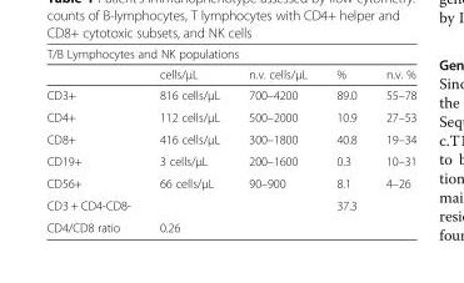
<table><thead><tr><td colspan="5">T/B Lymphocytes and NK populations</td></tr><tr><td></td><td>cells/μL</td><td>n.v. cells/μL</td><td>%</td><td>n.v. %</td></tr></thead><tbody><tr><td>CD3+</td><td>816 cells/μL</td><td>700–4200</td><td>89.0</td><td>55–78</td></tr><tr><td>CD4+</td><td>112 cells/μL</td><td>500–2000</td><td>10.9</td><td>27–53</td></tr><tr><td>CD8+</td><td>416 cells/μL</td><td>300–1800</td><td>40.8</td><td>19–34</td></tr><tr><td>CD19+</td><td>3 cells/μL</td><td>200–1600</td><td>0.3</td><td>10–31</td></tr><tr><td>CD56+</td><td>66 cells/μL</td><td>90–900</td><td>8.1</td><td>4–26</td></tr><tr><td>CD3 + CD4-CD8-</td><td></td><td></td><td>37.3</td><td></td></tr><tr><td>CD4/CD8 ratio</td><td>0.26</td><td></td><td></td><td></td></tr></tbody></table>